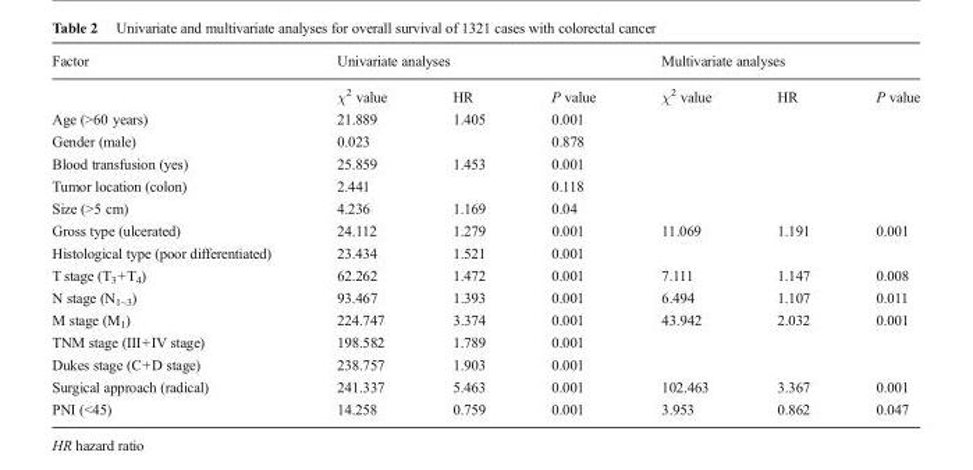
<table><thead><tr><td rowspan="2">Factor</td><td colspan="3">Univariate analyses</td><td colspan="3">Multivariate analyses</td></tr><tr><td>χ<sup>2</sup> value</td><td>HR</td><td>P value</td><td>χ<sup>2</sup> value</td><td>HR</td><td>P value</td></tr></thead><tbody><tr><td>Age (&gt;60 years)</td><td>21.889</td><td>1.405</td><td>0.001</td><td></td><td></td><td></td></tr><tr><td>Gender (male)</td><td>0.023</td><td></td><td>0.878</td><td></td><td></td><td></td></tr><tr><td>Blood transfusion (yes)</td><td>25.859</td><td>1.453</td><td>0.001</td><td></td><td></td><td></td></tr><tr><td>Tumor location (colon)</td><td>2.441</td><td></td><td>0.118</td><td></td><td></td><td></td></tr><tr><td>Size (&gt;5 cm)</td><td>4.236</td><td>1.169</td><td>0.04</td><td></td><td></td><td></td></tr><tr><td>Gross type (ulcerated)</td><td>24.112</td><td>1.279</td><td>0.001</td><td>11.069</td><td>1.191</td><td>0.001</td></tr><tr><td>Histological type (poor differentiated)</td><td>23.434</td><td>1.521</td><td>0.001</td><td></td><td></td><td></td></tr><tr><td>T stage (T<sub>3</sub>+T<sub>4</sub>)</td><td>62.262</td><td>1.472</td><td>0.001</td><td>7.111</td><td>1.147</td><td>0.008</td></tr><tr><td>N stage (N<sub>1~3</sub>)</td><td>93.467</td><td>1.393</td><td>0.001</td><td>6.494</td><td>1.107</td><td>0.011</td></tr><tr><td>M stage (M<sub>1</sub>)</td><td>224.747</td><td>3.374</td><td>0.001</td><td>43.942</td><td>2.032</td><td>0.001</td></tr><tr><td>TNM stage (III+IV stage)</td><td>198.582</td><td>1.789</td><td>0.001</td><td></td><td></td><td></td></tr><tr><td>Dukes stage (C+D stage)</td><td>238.757</td><td>1.903</td><td>0.001</td><td></td><td></td><td></td></tr><tr><td>Surgical approach (radical)</td><td>241.337</td><td>5.463</td><td>0.001</td><td>102.463</td><td>3.367</td><td>0.001</td></tr><tr><td>PNI (&lt;45)</td><td>14.258</td><td>0.759</td><td>0.001</td><td>3.953</td><td>0.862</td><td>0.047</td></tr></tbody></table>